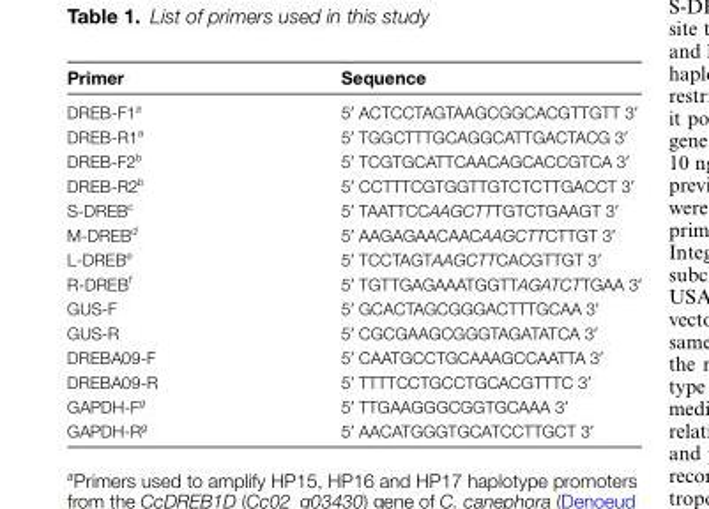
<table><thead><tr><td>Primer</td><td>Sequence</td></tr></thead><tbody><tr><td>DREB-F1<sup>a</sup></td><td>5′ ACTCCTAGTAAGCGGCACGTTGTT 3′</td></tr><tr><td>DREB-R1<sup>a</sup></td><td>5′ TGGCTTTGCAGGCATTGACTACG 3′</td></tr><tr><td>DREB-F2<sup>b</sup></td><td>5′ TCGTGCATTCAACAGCACCGTCA 3′</td></tr><tr><td>DREB-R2<sup>b</sup></td><td>5′ CCTTTCGTGGTTGTCTCTTGACCT 3′</td></tr><tr><td>S-DREB<sup>c</sup></td><td>5′ TAATTCCAAGCTTTGTCTGAAGT 3′</td></tr><tr><td>M-DREB<sup>d</sup></td><td>5′ AAGAGAACAACAAGCTTCTTGT 3′</td></tr><tr><td>L-DREB<sup>e</sup></td><td>5′ TCCTAGTAAGCTTCACGTTGT 3′</td></tr><tr><td>R-DREB<sup>f</sup></td><td>5′ TGTTGAGAAATGGTTAGATCTTGAA 3′</td></tr><tr><td>GUS-F</td><td>5′ GCACTAGCGGGACTTTGCAA 3′</td></tr><tr><td>GUS-R</td><td>5′ CGCGAAGCGGGTAGATATCA 3′</td></tr><tr><td>DREBA09-F</td><td>5′ CAATGCCTGCAAAGCCAATTA 3′</td></tr><tr><td>DREBA09-R</td><td>5′ TTTTCCTGCCTGCACGTTTC 3′</td></tr><tr><td>GAPDH-F<sup>g</sup></td><td>5′ TTGAAGGGCGGTGCAAA 3′</td></tr><tr><td>GAPDH-R<sup>g</sup></td><td>5′ AACATGGGTGCATCCTTGCT 3′</td></tr></tbody></table>